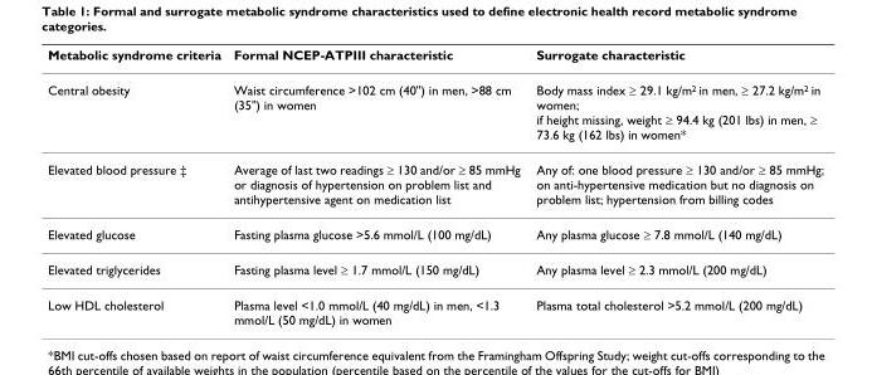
<table><thead><tr><td>Metabolic syndrome criteria</td><td>Formal NCEP-ATPIII characteristic</td><td>Surrogate characteristic</td></tr></thead><tbody><tr><td>Central obesity</td><td>Waist circumference &gt;102 cm (40&quot;) in men, &gt;88 cm (35&quot;) in women</td><td>Body mass index ≥ 29.1 kg/m<sup>2</sup> in men, ≥ 27.2 kg/m<sup>2</sup> in women; if height missing, weight ≥ 94.4 kg (201 lbs) in men, ≥ 73.6 kg (162 lbs) in women*</td></tr><tr><td>Elevated blood pressure ‡</td><td>Average of last two readings ≥ 130 and/or ≥ 85 mmHg or diagnosis of hypertension on problem list and antihypertensive agent on medication list</td><td>Any of: one blood pressure ≥ 130 and/or ≥ 85 mmHg; on anti-hypertensive medication but no diagnosis on problem list; hypertension from billing codes</td></tr><tr><td>Elevated glucose</td><td>Fasting plasma glucose &gt;5.6 mmol/L (100 mg/dL)</td><td>Any plasma glucose ≥ 7.8 mmol/L (140 mg/dL)</td></tr><tr><td>Elevated triglycerides</td><td>Fasting plasma level ≥ 1.7 mmol/L (150 mg/dL)</td><td>Any plasma level ≥ 2.3 mmol/L (200 mg/dL)</td></tr><tr><td>Low HDL cholesterol</td><td>Plasma level &lt;1.0 mmol/L (40 mg/dL) in men, &lt;1.3 mmol/L (50 mg/dL) in women</td><td>Plasma total cholesterol &gt;5.2 mmol/L (200 mg/dL)</td></tr></tbody></table>